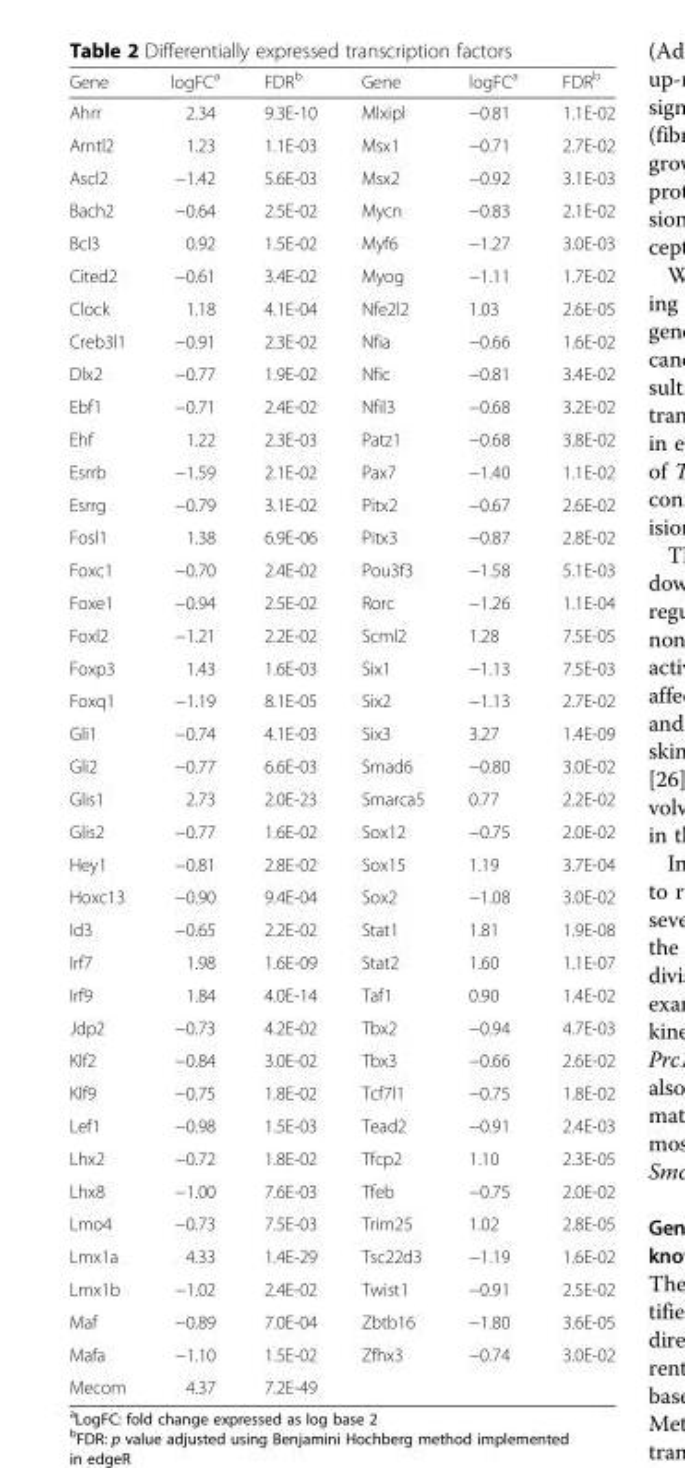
<table><thead><tr><td>Gene</td><td>logFC<sup>a</sup></td><td>FDR<sup>b</sup></td><td>Gene</td><td>logFC<sup>a</sup></td><td>FDR<sup>b</sup></td></tr></thead><tbody><tr><td>Ahrr</td><td>2.34</td><td>9.3E-10</td><td>Mlxipl</td><td>−0.81</td><td>1.1E-02</td></tr><tr><td>Arntl2</td><td>1.23</td><td>1.1E-03</td><td>Msx1</td><td>−0.71</td><td>2.7E-02</td></tr><tr><td>Ascl2</td><td>−1.42</td><td>5.6E-03</td><td>Msx2</td><td>−0.92</td><td>3.1E-03</td></tr><tr><td>Bach2</td><td>−0.64</td><td>2.5E-02</td><td>Mycn</td><td>−0.83</td><td>2.1E-02</td></tr><tr><td>Bcl3</td><td>0.92</td><td>1.5E-02</td><td>Myf6</td><td>−1.27</td><td>3.0E-03</td></tr><tr><td>Cited2</td><td>−0.61</td><td>3.4E-02</td><td>Myog</td><td>−1.11</td><td>1.7E-02</td></tr><tr><td>Clock</td><td>1.18</td><td>4.1E-04</td><td>Nfe2l2</td><td>1.03</td><td>2.6E-05</td></tr><tr><td>Creb3l1</td><td>−0.91</td><td>2.3E-02</td><td>Nfia</td><td>−0.66</td><td>1.6E-02</td></tr><tr><td>Dlx2</td><td>−0.77</td><td>1.9E-02</td><td>Nfic</td><td>−0.81</td><td>3.4E-02</td></tr><tr><td>Ebf1</td><td>−0.71</td><td>2.4E-02</td><td>Nfil3</td><td>−0.68</td><td>3.2E-02</td></tr><tr><td>Ehf</td><td>1.22</td><td>2.3E-03</td><td>Patz1</td><td>−0.68</td><td>3.8E-02</td></tr><tr><td>Esrrb</td><td>−1.59</td><td>2.1E-02</td><td>Pax7</td><td>−1.40</td><td>1.1E-02</td></tr><tr><td>Esrrg</td><td>−0.79</td><td>3.1E-02</td><td>Pitx2</td><td>−0.67</td><td>2.6E-02</td></tr><tr><td>Fosl1</td><td>1.38</td><td>6.9E-06</td><td>Pitx3</td><td>−0.87</td><td>2.8E-02</td></tr><tr><td>Foxc1</td><td>−0.70</td><td>2.4E-02</td><td>Pou3f3</td><td>−1.58</td><td>5.1E-03</td></tr><tr><td>Foxe1</td><td>−0.94</td><td>2.5E-02</td><td>Rorc</td><td>−1.26</td><td>1.1E-04</td></tr><tr><td>Foxl2</td><td>−1.21</td><td>2.2E-02</td><td>Scml2</td><td>1.28</td><td>7.5E-05</td></tr><tr><td>Foxp3</td><td>1.43</td><td>1.6E-03</td><td>Six1</td><td>−1.13</td><td>7.5E-03</td></tr><tr><td>Foxq1</td><td>−1.19</td><td>8.1E-05</td><td>Six2</td><td>−1.13</td><td>2.7E-02</td></tr><tr><td>Gli1</td><td>−0.74</td><td>4.1E-03</td><td>Six3</td><td>3.27</td><td>1.4E-09</td></tr><tr><td>Gli2</td><td>−0.77</td><td>6.6E-03</td><td>Smad6</td><td>−0.80</td><td>3.0E-02</td></tr><tr><td>Glis1</td><td>2.73</td><td>2.0E-23</td><td>Smarca5</td><td>0.77</td><td>2.2E-02</td></tr><tr><td>Glis2</td><td>−0.77</td><td>1.6E-02</td><td>Sox12</td><td>−0.75</td><td>2.0E-02</td></tr><tr><td>Hey1</td><td>−0.81</td><td>2.8E-02</td><td>Sox15</td><td>1.19</td><td>3.7E-04</td></tr><tr><td>Hoxc13</td><td>−0.90</td><td>9.4E-04</td><td>Sox2</td><td>−1.08</td><td>3.0E-02</td></tr><tr><td>Id3</td><td>−0.65</td><td>2.2E-02</td><td>Stat1</td><td>1.81</td><td>1.9E-08</td></tr><tr><td>Irf7</td><td>1.98</td><td>1.6E-09</td><td>Stat2</td><td>1.60</td><td>1.1E-07</td></tr><tr><td>Irf9</td><td>1.84</td><td>4.0E-14</td><td>Taf1</td><td>0.90</td><td>1.4E-02</td></tr><tr><td>Jdp2</td><td>−0.73</td><td>4.2E-02</td><td>Tbx2</td><td>−0.94</td><td>4.7E-03</td></tr><tr><td>Klf2</td><td>−0.84</td><td>3.0E-02</td><td>Tbx3</td><td>−0.66</td><td>2.6E-02</td></tr><tr><td>Klf9</td><td>−0.75</td><td>1.8E-02</td><td>Tcf7l1</td><td>−0.75</td><td>1.8E-02</td></tr><tr><td>Lef1</td><td>−0.98</td><td>1.5E-03</td><td>Tead2</td><td>−0.91</td><td>2.4E-03</td></tr><tr><td>Lhx2</td><td>−0.72</td><td>1.8E-02</td><td>Tfcp2</td><td>1.10</td><td>2.3E-05</td></tr><tr><td>Lhx8</td><td>−1.00</td><td>7.6E-03</td><td>Tfeb</td><td>−0.75</td><td>2.0E-02</td></tr><tr><td>Lmo4</td><td>−0.73</td><td>7.5E-03</td><td>Trim25</td><td>1.02</td><td>2.8E-05</td></tr><tr><td>Lmx1a</td><td>4.33</td><td>1.4E-29</td><td>Tsc22d3</td><td>−1.19</td><td>1.6E-02</td></tr><tr><td>Lmx1b</td><td>−1.02</td><td>2.4E-02</td><td>Twist1</td><td>−0.91</td><td>2.5E-02</td></tr><tr><td>Maf</td><td>−0.89</td><td>7.0E-04</td><td>Zbtb16</td><td>−1.80</td><td>3.6E-05</td></tr><tr><td>Mafa</td><td>−1.10</td><td>1.5E-02</td><td>Zfhx3</td><td>−0.74</td><td>3.0E-02</td></tr><tr><td>Mecom</td><td>4.37</td><td>7.2E-49</td><td></td><td></td><td></td></tr></tbody></table>